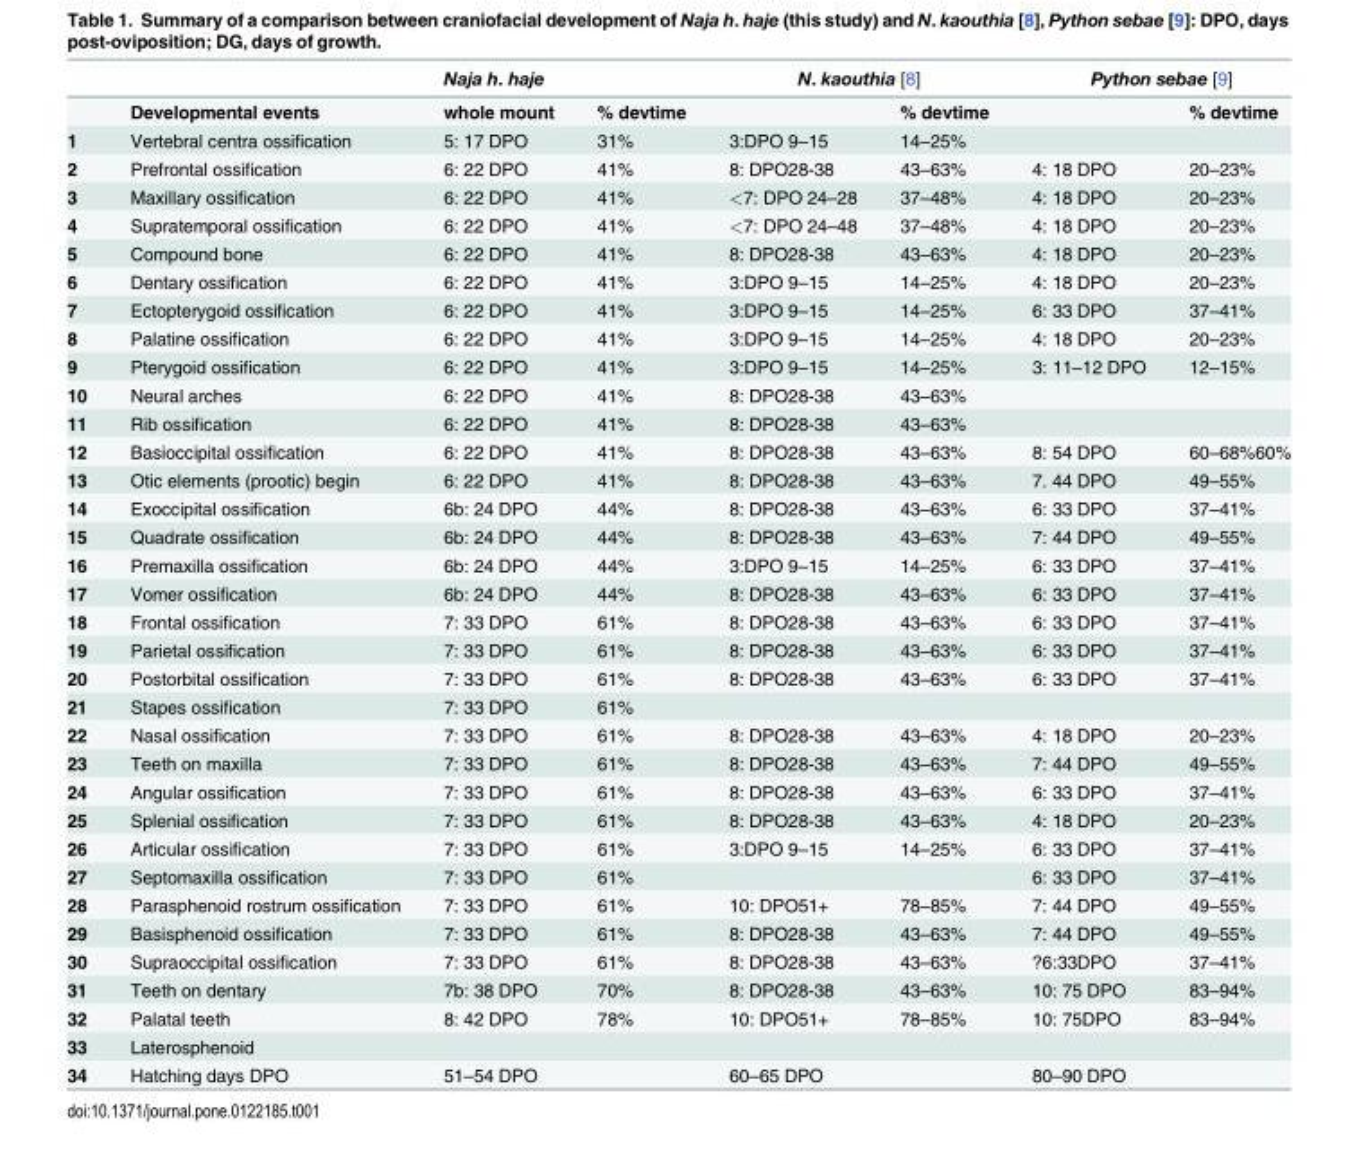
<table><thead><tr><td rowspan="2"></td><td rowspan="2">Developmental events</td><td rowspan="2">Naja h. haje whole mount</td><td rowspan="2">% devtime</td><td colspan="2">N. kaouthia [8]</td><td colspan="2">Python sebae [9]</td></tr><tr><td></td><td>% devtime</td><td></td><td>% devtime</td></tr></thead><tbody><tr><td>1</td><td>Vertebral centra ossification</td><td>5: 17 DPO</td><td>31%</td><td>3:DPO 9–15</td><td>14–25%</td><td></td><td></td></tr><tr><td>2</td><td>Prefrontal ossification</td><td>6: 22 DPO</td><td>41%</td><td>8: DPO28-38</td><td>43–63%</td><td>4: 18 DPO</td><td>20–23%</td></tr><tr><td>3</td><td>Maxillary ossification</td><td>6: 22 DPO</td><td>41%</td><td>&lt;7: DPO 24–28</td><td>37–48%</td><td>4: 18 DPO</td><td>20–23%</td></tr><tr><td>4</td><td>Supratemporal ossification</td><td>6: 22 DPO</td><td>41%</td><td>&lt;7: DPO 24–48</td><td>37–48%</td><td>4: 18 DPO</td><td>20–23%</td></tr><tr><td>5</td><td>Compound bone</td><td>6: 22 DPO</td><td>41%</td><td>8: DPO28-38</td><td>43–63%</td><td>4: 18 DPO</td><td>20–23%</td></tr><tr><td>6</td><td>Dentary ossification</td><td>6: 22 DPO</td><td>41%</td><td>3:DPO 9–15</td><td>14–25%</td><td>4: 18 DPO</td><td>20–23%</td></tr><tr><td>7</td><td>Ectopterygoid ossification</td><td>6: 22 DPO</td><td>41%</td><td>3:DPO 9–15</td><td>14–25%</td><td>6: 33 DPO</td><td>37–41%</td></tr><tr><td>8</td><td>Palatine ossification</td><td>6: 22 DPO</td><td>41%</td><td>3:DPO 9–15</td><td>14–25%</td><td>4: 18 DPO</td><td>20–23%</td></tr><tr><td>9</td><td>Pterygoid ossification</td><td>6: 22 DPO</td><td>41%</td><td>3:DPO 9–15</td><td>14–25%</td><td>3: 11–12 DPO</td><td>12–15%</td></tr><tr><td>10</td><td>Neural arches</td><td>6: 22 DPO</td><td>41%</td><td>8: DPO28-38</td><td>43–63%</td><td></td><td></td></tr><tr><td>11</td><td>Rib ossification</td><td>6: 22 DPO</td><td>41%</td><td>8: DPO28-38</td><td>43–63%</td><td></td><td></td></tr><tr><td>12</td><td>Basioccipital ossification</td><td>6: 22 DPO</td><td>41%</td><td>8: DPO28-38</td><td>43–63%</td><td>8: 54 DPO</td><td>60–68%60%</td></tr><tr><td>13</td><td>Otic elements (prootic) begin</td><td>6: 22 DPO</td><td>41%</td><td>8: DPO28-38</td><td>43–63%</td><td>7. 44 DPO</td><td>49–55%</td></tr><tr><td>14</td><td>Exoccipital ossification</td><td>6b: 24 DPO</td><td>44%</td><td>8: DPO28-38</td><td>43–63%</td><td>6: 33 DPO</td><td>37–41%</td></tr><tr><td>15</td><td>Quadrate ossification</td><td>6b: 24 DPO</td><td>44%</td><td>8: DPO28-38</td><td>43–63%</td><td>7: 44 DPO</td><td>49–55%</td></tr><tr><td>16</td><td>Premaxilla ossification</td><td>6b: 24 DPO</td><td>44%</td><td>3:DPO 9–15</td><td>14–25%</td><td>6: 33 DPO</td><td>37–41%</td></tr><tr><td>17</td><td>Vomer ossification</td><td>6b: 24 DPO</td><td>44%</td><td>8: DPO28-38</td><td>43–63%</td><td>6: 33 DPO</td><td>37–41%</td></tr><tr><td>18</td><td>Frontal ossification</td><td>7: 33 DPO</td><td>61%</td><td>8: DPO28-38</td><td>43–63%</td><td>6: 33 DPO</td><td>37–41%</td></tr><tr><td>19</td><td>Parietal ossification</td><td>7: 33 DPO</td><td>61%</td><td>8: DPO28-38</td><td>43–63%</td><td>6: 33 DPO</td><td>37–41%</td></tr><tr><td>20</td><td>Postorbital ossification</td><td>7: 33 DPO</td><td>61%</td><td>8: DPO28-38</td><td>43–63%</td><td>6: 33 DPO</td><td>37–41%</td></tr><tr><td>21</td><td>Stapes ossification</td><td>7: 33 DPO</td><td>61%</td><td></td><td></td><td></td><td></td></tr><tr><td>22</td><td>Nasal ossification</td><td>7: 33 DPO</td><td>61%</td><td>8: DPO28-38</td><td>43–63%</td><td>4: 18 DPO</td><td>20–23%</td></tr><tr><td>23</td><td>Teeth on maxilla</td><td>7: 33 DPO</td><td>61%</td><td>8: DPO28-38</td><td>43–63%</td><td>7: 44 DPO</td><td>49–55%</td></tr><tr><td>24</td><td>Angular ossification</td><td>7: 33 DPO</td><td>61%</td><td>8: DPO28-38</td><td>43–63%</td><td>6: 33 DPO</td><td>37–41%</td></tr><tr><td>25</td><td>Splenial ossification</td><td>7: 33 DPO</td><td>61%</td><td>8: DPO28-38</td><td>43–63%</td><td>4: 18 DPO</td><td>20–23%</td></tr><tr><td>26</td><td>Articular ossification</td><td>7: 33 DPO</td><td>61%</td><td>3:DPO 9–15</td><td>14–25%</td><td>6: 33 DPO</td><td>37–41%</td></tr><tr><td>27</td><td>Septomaxilla ossification</td><td>7: 33 DPO</td><td>61%</td><td></td><td></td><td>6: 33 DPO</td><td>37–41%</td></tr><tr><td>28</td><td>Parasphenoid rostrum ossification</td><td>7: 33 DPO</td><td>61%</td><td>10: DPO51+</td><td>78–85%</td><td>7: 44 DPO</td><td>49–55%</td></tr><tr><td>29</td><td>Basisphenoid ossification</td><td>7: 33 DPO</td><td>61%</td><td>8: DPO28-38</td><td>43–63%</td><td>7: 44 DPO</td><td>49–55%</td></tr><tr><td>30</td><td>Supraoccipital ossification</td><td>7: 33 DPO</td><td>61%</td><td>8: DPO28-38</td><td>43–63%</td><td>?6:33DPO</td><td>37–41%</td></tr><tr><td>31</td><td>Teeth on dentary</td><td>7b: 38 DPO</td><td>70%</td><td>8: DPO28-38</td><td>43–63%</td><td>10: 75 DPO</td><td>83–94%</td></tr><tr><td>32</td><td>Palatal teeth</td><td>8: 42 DPO</td><td>78%</td><td>10: DPO51+</td><td>78–85%</td><td>10: 75DPO</td><td>83–94%</td></tr><tr><td>33</td><td>Laterosphenoid</td><td></td><td></td><td></td><td></td><td></td><td></td></tr><tr><td>34</td><td>Hatching days DPO</td><td>51–54 DPO</td><td></td><td>60–65 DPO</td><td></td><td>80–90 DPO</td><td></td></tr></tbody></table>